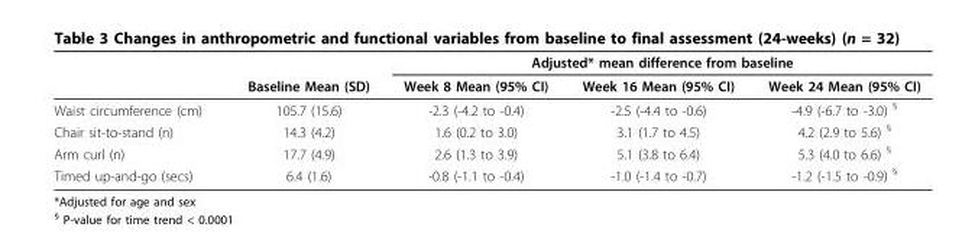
<table><thead><tr><td rowspan="2"></td><td rowspan="2">Baseline Mean (SD)</td><td colspan="3">Adjusted* mean difference from baseline</td></tr><tr><td>Week 8 Mean (95% CI)</td><td>Week 16 Mean (95% CI)</td><td>Week 24 Mean (95% CI)</td></tr></thead><tbody><tr><td>Waist circumference (cm)</td><td>105.7 (15.6)</td><td>-2.3 (-4.2 to -0.4)</td><td>-2.5 (-4.4 to -0.6)</td><td>-4.9 (-6.7 to -3.0) <sup>§</sup></td></tr><tr><td>Chair sit-to-stand (n)</td><td>14.3 (4.2)</td><td>1.6 (0.2 to 3.0)</td><td>3.1 (1.7 to 4.5)</td><td>4.2 (2.9 to 5.6) <sup>§</sup></td></tr><tr><td>Arm curl (n)</td><td>17.7 (4.9)</td><td>2.6 (1.3 to 3.9)</td><td>5.1 (3.8 to 6.4)</td><td>5.3 (4.0 to 6.6) <sup>§</sup></td></tr><tr><td>Timed up-and-go (secs)</td><td>6.4 (1.6)</td><td>-0.8 (-1.1 to -0.4)</td><td>-1.0 (-1.4 to -0.7)</td><td>-1.2 (-1.5 to -0.9) <sup>§</sup></td></tr></tbody></table>